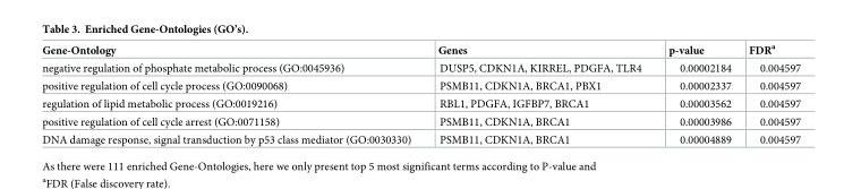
<table><thead><tr><td>Gene-Ontology</td><td>Genes</td><td>p-value</td><td>FDR<sup>a</sup></td></tr></thead><tbody><tr><td>negative regulation of phosphate metabolic process (GO:0045936)</td><td>DUSP5, CDKN1A, KIRREL, PDGFA, TLR4</td><td>0.00002184</td><td>0.004597</td></tr><tr><td>positive regulation of cell cycle process (GO:0090068)</td><td>PSMB11, CDKN1A, BRCA1, PBX1</td><td>0.00002337</td><td>0.004597</td></tr><tr><td>regulation of lipid metabolic process (GO:0019216)</td><td>RBL1, PDGFA, IGFBP7, BRCA1</td><td>0.00003562</td><td>0.004597</td></tr><tr><td>positive regulation of cell cycle arrest (GO:0071158)</td><td>PSMB11, CDKN1A, BRCA1</td><td>0.00003986</td><td>0.004597</td></tr><tr><td>DNA damage response, signal transduction by p53 class mediator (GO:0030330)</td><td>PSMB11, CDKN1A, BRCA1</td><td>0.00004889</td><td>0.004597</td></tr></tbody></table>